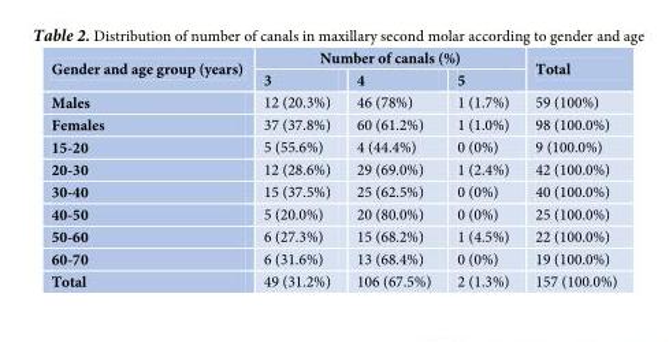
<table><thead><tr><td rowspan="2">Gender and age group (years)</td><td colspan="3">Number of canals (%)</td><td rowspan="2">Total</td></tr><tr><td>3</td><td>4</td><td>5</td></tr></thead><tbody><tr><td>Males</td><td>12 (20.3%)</td><td>46 (78%)</td><td>1 (1.7%)</td><td>59 (100%)</td></tr><tr><td>Females</td><td>37 (37.8%)</td><td>60 (61.2%)</td><td>1 (1.0%)</td><td>98 (100.0%)</td></tr><tr><td>15-20</td><td>5 (55.6%)</td><td>4 (44.4%)</td><td>0 (0%)</td><td>9 (100.0%)</td></tr><tr><td>20-30</td><td>12 (28.6%)</td><td>29 (69.0%)</td><td>1 (2.4%)</td><td>42 (100.0%)</td></tr><tr><td>30-40</td><td>15 (37.5%)</td><td>25 (62.5%)</td><td>0 (0%)</td><td>40 (100.0%)</td></tr><tr><td>40-50</td><td>5 (20.0%)</td><td>20 (80.0%)</td><td>0 (0%)</td><td>25 (100.0%)</td></tr><tr><td>50-60</td><td>6 (27.3%)</td><td>15 (68.2%)</td><td>1 (4.5%)</td><td>22 (100.0%)</td></tr><tr><td>60-70</td><td>6 (31.6%)</td><td>13 (68.4%)</td><td>0 (0%)</td><td>19 (100.0%)</td></tr><tr><td>Total</td><td>49 (31.2%)</td><td>106 (67.5%)</td><td>2 (1.3%)</td><td>157 (100.0%)</td></tr></tbody></table>